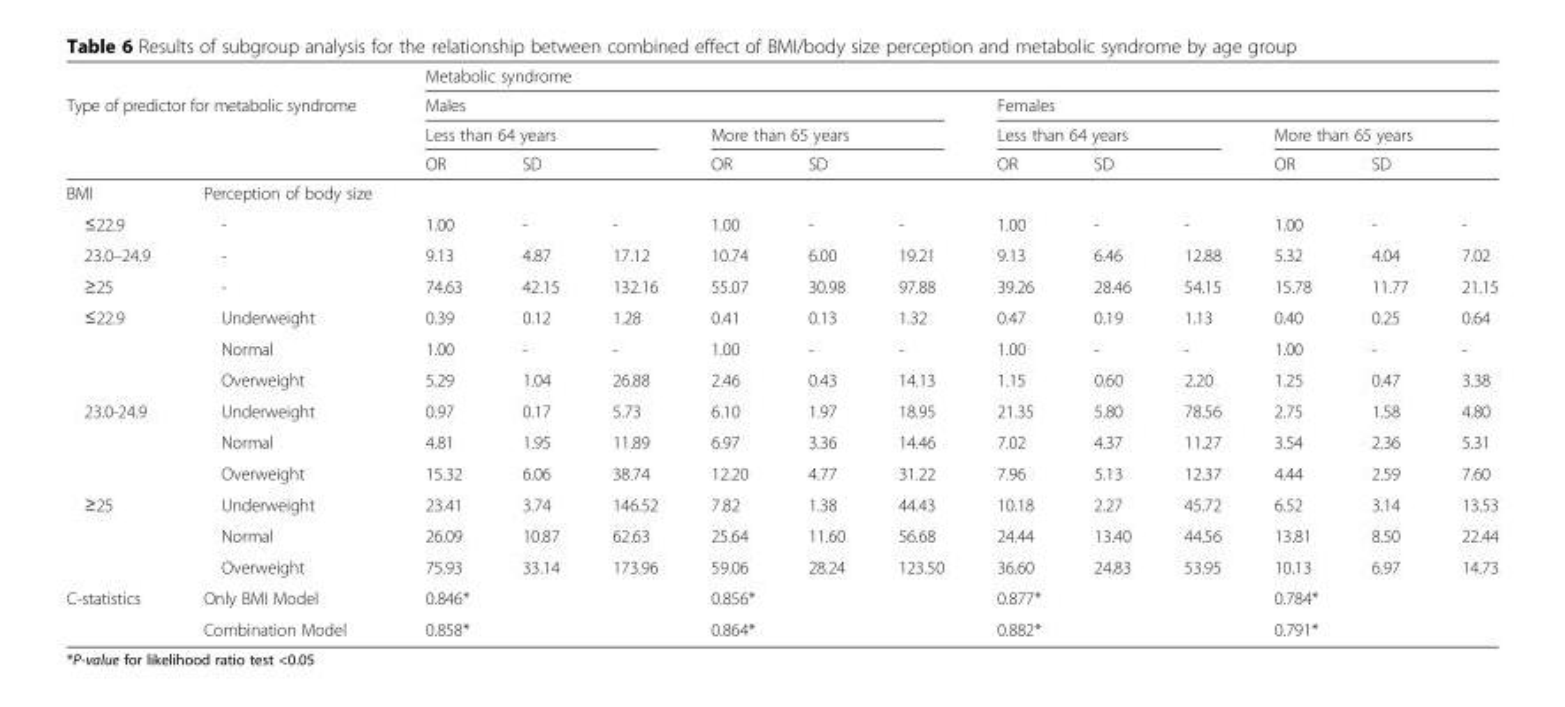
<table><thead><tr><td></td><td></td><td colspan="12">Metabolic syndrome</td></tr><tr><td rowspan="3" colspan="2">Type of predictor for metabolic syndrome</td><td colspan="6">Males</td><td colspan="6">Females</td></tr><tr><td colspan="3">Less than 64 years</td><td colspan="3">More than 65 years</td><td colspan="3">Less than 64 years</td><td colspan="3">More than 65 years</td></tr><tr><td rowspan="2">OR</td><td colspan="2">SD</td><td rowspan="2">OR</td><td colspan="2">SD</td><td rowspan="2">OR</td><td colspan="2">SD</td><td rowspan="2">OR</td><td colspan="2">SD</td></tr><tr><td>BMI</td><td>Perception of body size</td><td></td><td></td><td></td><td></td><td></td><td></td><td></td><td></td></tr></thead><tbody><tr><td>≤22.9</td><td>-</td><td>1.00</td><td>-</td><td>-</td><td>1.00</td><td>-</td><td>-</td><td>1.00</td><td>-</td><td>-</td><td>1.00</td><td>-</td><td>-</td></tr><tr><td>23.0–24.9</td><td>-</td><td>9.13</td><td>4.87</td><td>17.12</td><td>10.74</td><td>6.00</td><td>19.21</td><td>9.13</td><td>6.46</td><td>12.88</td><td>5.32</td><td>4.04</td><td>7.02</td></tr><tr><td>≥25</td><td>-</td><td>74.63</td><td>42.15</td><td>132.16</td><td>55.07</td><td>30.98</td><td>97.88</td><td>39.26</td><td>28.46</td><td>54.15</td><td>15.78</td><td>11.77</td><td>21.15</td></tr><tr><td rowspan="3">≤22.9</td><td>Underweight</td><td>0.39</td><td>0.12</td><td>1.28</td><td>0.41</td><td>0.13</td><td>1.32</td><td>0.47</td><td>0.19</td><td>1.13</td><td>0.40</td><td>0.25</td><td>0.64</td></tr><tr><td>Normal</td><td>1.00</td><td>-</td><td>-</td><td>1.00</td><td>-</td><td>-</td><td>1.00</td><td>-</td><td>-</td><td>1.00</td><td>-</td><td>-</td></tr><tr><td>Overweight</td><td>5.29</td><td>1.04</td><td>26.88</td><td>2.46</td><td>0.43</td><td>14.13</td><td>1.15</td><td>0.60</td><td>2.20</td><td>1.25</td><td>0.47</td><td>3.38</td></tr><tr><td rowspan="3">23.0-24.9</td><td>Underweight</td><td>0.97</td><td>0.17</td><td>5.73</td><td>6.10</td><td>1.97</td><td>18.95</td><td>21.35</td><td>5.80</td><td>78.56</td><td>2.75</td><td>1.58</td><td>4.80</td></tr><tr><td>Normal</td><td>4.81</td><td>1.95</td><td>11.89</td><td>6.97</td><td>3.36</td><td>14.46</td><td>7.02</td><td>4.37</td><td>11.27</td><td>3.54</td><td>2.36</td><td>5.31</td></tr><tr><td>Overweight</td><td>15.32</td><td>6.06</td><td>38.74</td><td>12.20</td><td>4.77</td><td>31.22</td><td>7.96</td><td>5.13</td><td>12.37</td><td>4.44</td><td>2.59</td><td>7.60</td></tr><tr><td rowspan="3">≥25</td><td>Underweight</td><td>23.41</td><td>3.74</td><td>146.52</td><td>7.82</td><td>1.38</td><td>44.43</td><td>10.18</td><td>2.27</td><td>45.72</td><td>6.52</td><td>3.14</td><td>13.53</td></tr><tr><td>Normal</td><td>26.09</td><td>10.87</td><td>62.63</td><td>25.64</td><td>11.60</td><td>56.68</td><td>24.44</td><td>13.40</td><td>44.56</td><td>13.81</td><td>8.50</td><td>22.44</td></tr><tr><td>Overweight</td><td>75.93</td><td>33.14</td><td>173.96</td><td>59.06</td><td>28.24</td><td>123.50</td><td>36.60</td><td>24.83</td><td>53.95</td><td>10.13</td><td>6.97</td><td>14.73</td></tr><tr><td rowspan="2">C-statistics</td><td>Only BMI Model</td><td>0.846*</td><td></td><td></td><td>0.856*</td><td></td><td></td><td>0.877*</td><td></td><td></td><td>0.784*</td><td></td><td></td></tr><tr><td>Combination Model</td><td>0.858*</td><td></td><td></td><td>0.864*</td><td></td><td></td><td>0.882*</td><td></td><td></td><td>0.791*</td><td></td><td></td></tr></tbody></table>